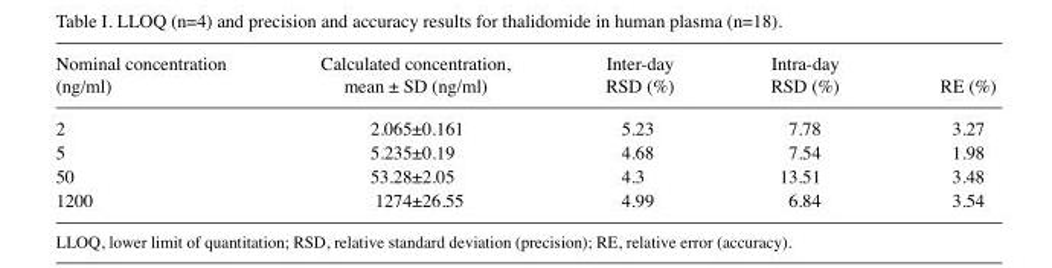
<table><thead><tr><td>Nominal concentration (ng/ml)</td><td>Calculated concentration, mean ± SD (ng/ml)</td><td>Inter‑day RSD (%)</td><td>Intra‑day RSD (%)</td><td>RE (%)</td></tr></thead><tbody><tr><td>2</td><td>2.065±0.161</td><td>5.23</td><td>7.78</td><td>3.27</td></tr><tr><td>5</td><td>5.235±0.19</td><td>4.68</td><td>7.54</td><td>1.98</td></tr><tr><td>50</td><td>53.28±2.05</td><td>4.3</td><td>13.51</td><td>3.48</td></tr><tr><td>1200</td><td>1274±26.55</td><td>4.99</td><td>6.84</td><td>3.54</td></tr></tbody></table>